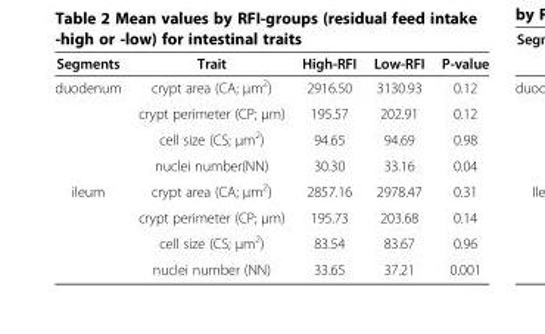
<table><thead><tr><td>Segments</td><td>Trait</td><td>High-RFI</td><td>Low-RFI</td><td>P-value</td></tr></thead><tbody><tr><td rowspan="4">duodenum</td><td>crypt area (CA; μm<sup>2</sup>)</td><td>2916.50</td><td>3130.93</td><td>0.12</td></tr><tr><td>crypt perimeter (CP; μm)</td><td>195.57</td><td>202.91</td><td>0.12</td></tr><tr><td>cell size (CS; μm<sup>2</sup>)</td><td>94.65</td><td>94.69</td><td>0.98</td></tr><tr><td>nuclei number(NN)</td><td>30.30</td><td>33.16</td><td>0.04</td></tr><tr><td rowspan="4">ileum</td><td>crypt area (CA; μm<sup>2</sup>)</td><td>2857.16</td><td>2978.47</td><td>0.31</td></tr><tr><td>crypt perimeter (CP; μm)</td><td>195.73</td><td>203.68</td><td>0.14</td></tr><tr><td>cell size (CS; μm<sup>2</sup>)</td><td>83.54</td><td>83.67</td><td>0.96</td></tr><tr><td>nuclei number (NN)</td><td>33.65</td><td>37.21</td><td>0.001</td></tr></tbody></table>